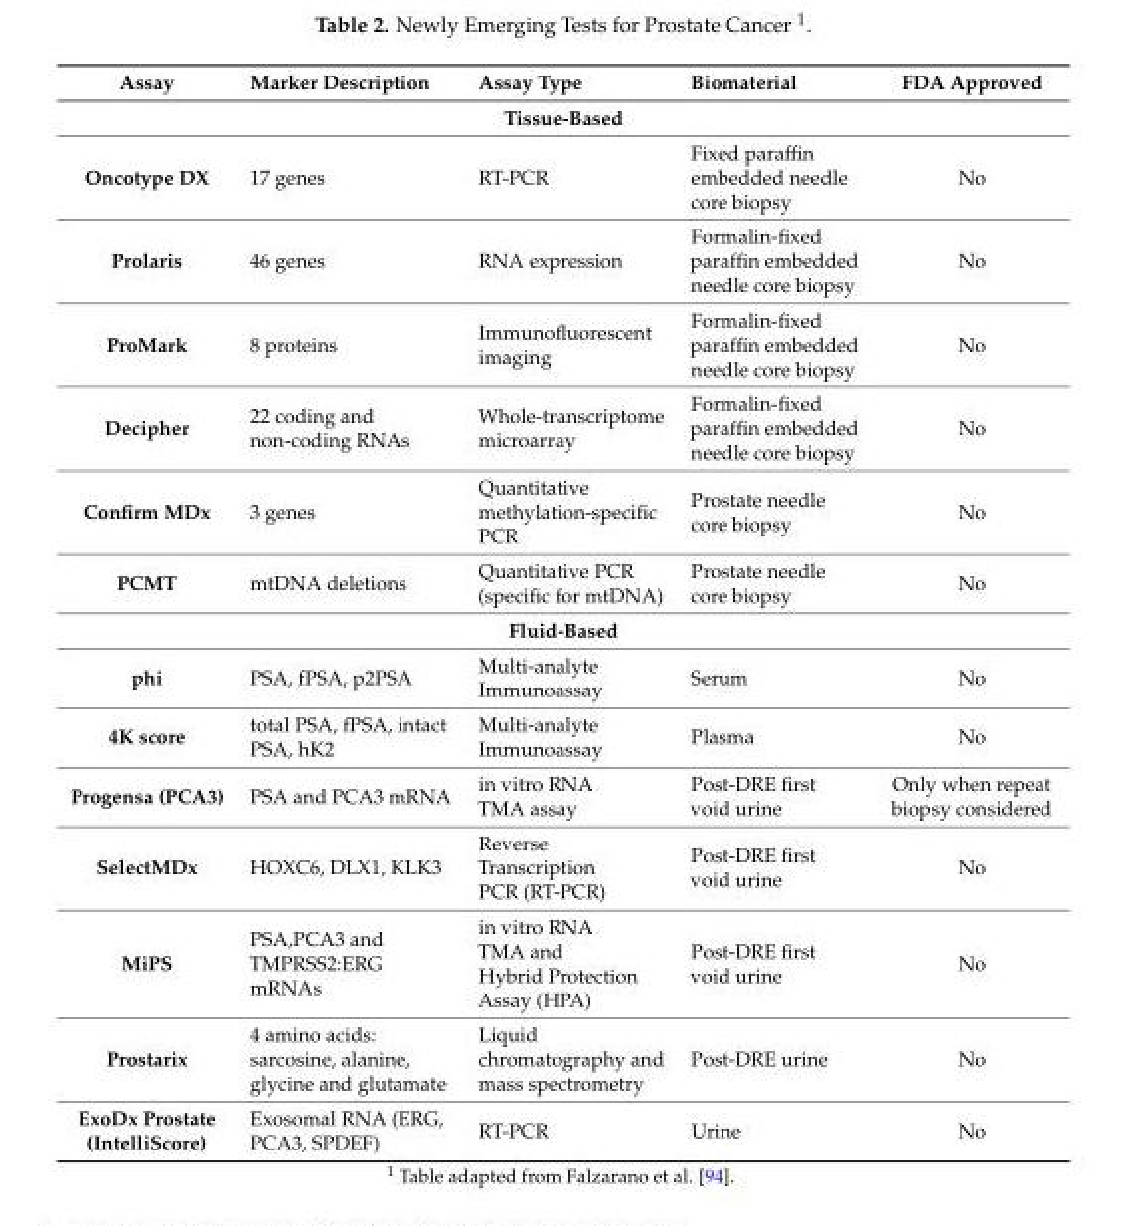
<table><thead><tr><td>Assay</td><td>Marker Description</td><td>Assay Type</td><td>Biomaterial</td><td>FDA Approved</td></tr></thead><tbody><tr><td colspan="5">Tissue-Based</td></tr><tr><td>Oncotype DX</td><td>17 genes</td><td>RT-PCR</td><td>Fixed paraffin embedded needle core biopsy</td><td>No</td></tr><tr><td>Prolaris</td><td>46 genes</td><td>RNA expression</td><td>Formalin-fixed paraffin embedded needle core biopsy</td><td>No</td></tr><tr><td>ProMark</td><td>8 proteins</td><td>Immunofluorescent imaging</td><td>Formalin-fixed paraffin embedded needle core biopsy</td><td>No</td></tr><tr><td>Decipher</td><td>22 coding and non-coding RNAs</td><td>Whole-transcriptome microarray</td><td>Formalin-fixed paraffin embedded needle core biopsy</td><td>No</td></tr><tr><td>Confirm MDx</td><td>3 genes</td><td>Quantitative methylation-specific PCR</td><td>Prostate needle core biopsy</td><td>No</td></tr><tr><td>PCMT</td><td>mtDNA deletions</td><td>Quantitative PCR (specific for mtDNA)</td><td>Prostate needle core biopsy</td><td>No</td></tr><tr><td colspan="5">Fluid-Based</td></tr><tr><td>phi</td><td>PSA, fPSA, p2PSA</td><td>Multi-analyte Immunoassay</td><td>Serum</td><td>No</td></tr><tr><td>4K score</td><td>total PSA, fPSA, intact PSA, hK2</td><td>Multi-analyte Immunoassay</td><td>Plasma</td><td>No</td></tr><tr><td>Progensa (PCA3)</td><td>PSA and PCA3 mRNA</td><td>in vitro RNA TMA assay</td><td>Post-DRE first void urine</td><td>Only when repeat biopsy considered</td></tr><tr><td>SelectMDx</td><td>HOXC6, DLX1, KLK3</td><td>Reverse Transcription PCR (RT-PCR)</td><td>Post-DRE first void urine</td><td>No</td></tr><tr><td>MiPS</td><td>PSA,PCA3 and TMPRSS2:ERG mRNAs</td><td>in vitro RNA TMA and Hybrid Protection Assay (HPA)</td><td>Post-DRE first void urine</td><td>No</td></tr><tr><td>Prostarix</td><td>4 amino acids: sarcosine, alanine, glycine and glutamate</td><td>Liquid chromatography and mass spectrometry</td><td>Post-DRE urine</td><td>No</td></tr><tr><td>ExoDx Prostate (IntelliScore)</td><td>Exosomal RNA (ERG, PCA3, SPDEF)</td><td>RT-PCR</td><td>Urine</td><td>No</td></tr></tbody></table>